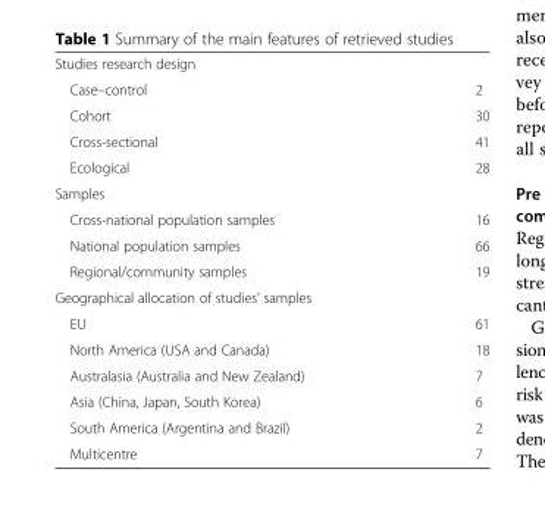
<table><tbody><tr><td colspan="2">Studies research design</td></tr><tr><td>Case–control</td><td>2</td></tr><tr><td>Cohort</td><td>30</td></tr><tr><td>Cross-sectional</td><td>41</td></tr><tr><td>Ecological</td><td>28</td></tr><tr><td colspan="2">Samples</td></tr><tr><td>Cross-national population samples</td><td>16</td></tr><tr><td>National population samples</td><td>66</td></tr><tr><td>Regional/community samples</td><td>19</td></tr><tr><td colspan="2">Geographical allocation of studies’ samples</td></tr><tr><td>EU</td><td>61</td></tr><tr><td>North America (USA and Canada)</td><td>18</td></tr><tr><td>Australasia (Australia and New Zealand)</td><td>7</td></tr><tr><td>Asia (China, Japan, South Korea)</td><td>6</td></tr><tr><td>South America (Argentina and Brazil)</td><td>2</td></tr><tr><td>Multicentre</td><td>7</td></tr></tbody></table>